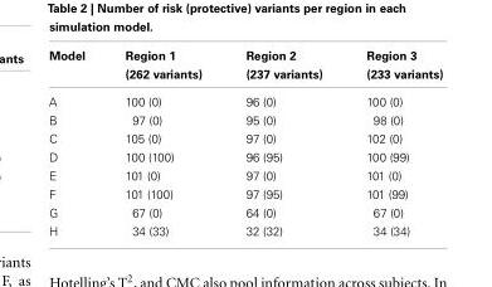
<table><thead><tr><td>Model</td><td>Region 1 (262 variants)</td><td>Region 2 (237 variants)</td><td>Region 3 (233 variants)</td></tr></thead><tbody><tr><td>A</td><td>100 (0)</td><td>96 (0)</td><td>100 (0)</td></tr><tr><td>B</td><td>97 (0)</td><td>95 (0)</td><td>98 (0)</td></tr><tr><td>C</td><td>105 (0)</td><td>97 (0)</td><td>102 (0)</td></tr><tr><td>D</td><td>100 (100)</td><td>96 (95)</td><td>100 (99)</td></tr><tr><td>E</td><td>101 (0)</td><td>97 (0)</td><td>101 (0)</td></tr><tr><td>F</td><td>101 (100)</td><td>97 (95)</td><td>101 (99)</td></tr><tr><td>G</td><td>67 (0)</td><td>64 (0)</td><td>67 (0)</td></tr><tr><td>H</td><td>34 (33)</td><td>32 (32)</td><td>34 (34)</td></tr></tbody></table>